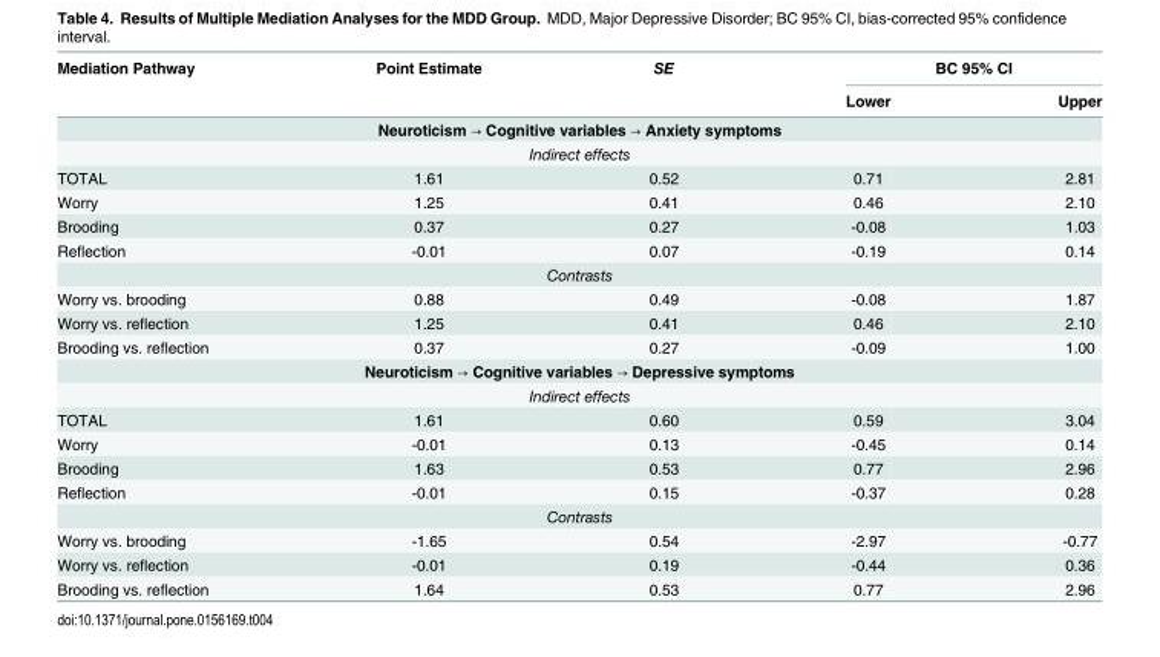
<table><thead><tr><td rowspan="2">Mediation Pathway</td><td rowspan="2">Point Estimate</td><td rowspan="2">SE</td><td colspan="2">BC 95% CI</td></tr><tr><td>Lower</td><td>Upper</td></tr></thead><tbody><tr><td colspan="5">Neuroticism → Cognitive variables → Anxiety symptoms</td></tr><tr><td colspan="5">Indirect effects</td></tr><tr><td>TOTAL</td><td>1.61</td><td>0.52</td><td>0.71</td><td>2.81</td></tr><tr><td>Worry</td><td>1.25</td><td>0.41</td><td>0.46</td><td>2.10</td></tr><tr><td>Brooding</td><td>0.37</td><td>0.27</td><td>-0.08</td><td>1.03</td></tr><tr><td>Reflection</td><td>-0.01</td><td>0.07</td><td>-0.19</td><td>0.14</td></tr><tr><td colspan="5">Contrasts</td></tr><tr><td>Worry vs. brooding</td><td>0.88</td><td>0.49</td><td>-0.08</td><td>1.87</td></tr><tr><td>Worry vs. reflection</td><td>1.25</td><td>0.41</td><td>0.46</td><td>2.10</td></tr><tr><td>Brooding vs. reflection</td><td>0.37</td><td>0.27</td><td>-0.09</td><td>1.00</td></tr><tr><td colspan="5">Neuroticism → Cognitive variables → Depressive symptoms</td></tr><tr><td colspan="5">Indirect effects</td></tr><tr><td>TOTAL</td><td>1.61</td><td>0.60</td><td>0.59</td><td>3.04</td></tr><tr><td>Worry</td><td>-0.01</td><td>0.13</td><td>-0.45</td><td>0.14</td></tr><tr><td>Brooding</td><td>1.63</td><td>0.53</td><td>0.77</td><td>2.96</td></tr><tr><td>Reflection</td><td>-0.01</td><td>0.15</td><td>-0.37</td><td>0.28</td></tr><tr><td colspan="5">Contrasts</td></tr><tr><td>Worry vs. brooding</td><td>-1.65</td><td>0.54</td><td>-2.97</td><td>-0.77</td></tr><tr><td>Worry vs. reflection</td><td>-0.01</td><td>0.19</td><td>-0.44</td><td>0.36</td></tr><tr><td>Brooding vs. reflection</td><td>1.64</td><td>0.53</td><td>0.77</td><td>2.96</td></tr></tbody></table>